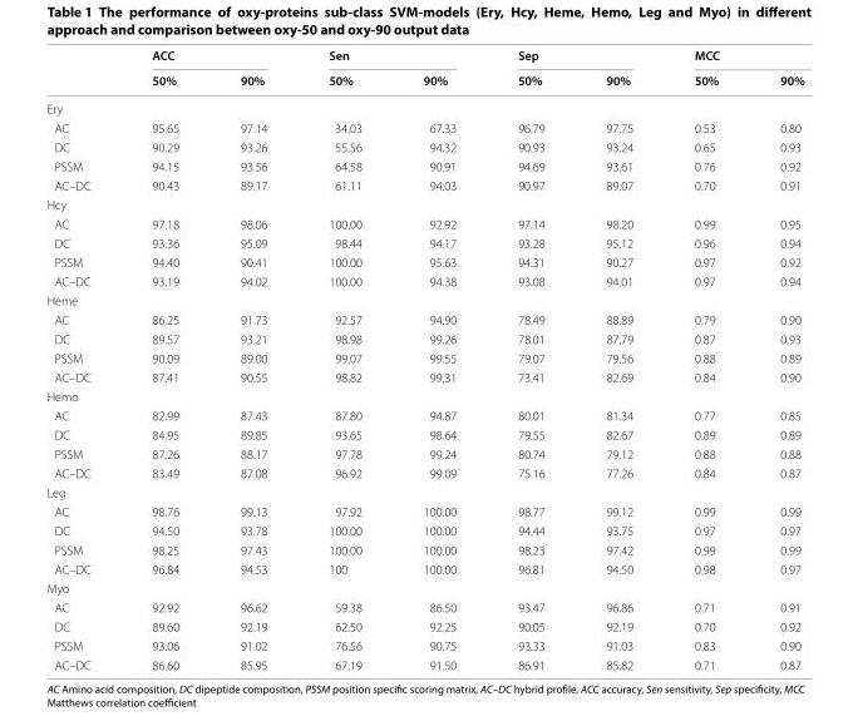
<table><thead><tr><td rowspan="2"></td><td colspan="2">ACC</td><td colspan="2">Sen</td><td colspan="2">Sep</td><td colspan="2">MCC</td></tr><tr><td>50%</td><td>90%</td><td>50%</td><td>90%</td><td>50%</td><td>90%</td><td>50%</td><td>90%</td></tr></thead><tbody><tr><td colspan="9">Ery</td></tr><tr><td>AC</td><td>95.65</td><td>97.14</td><td>34.03</td><td>67.33</td><td>96.79</td><td>97.75</td><td>0.53</td><td>0.80</td></tr><tr><td>DC</td><td>90.29</td><td>93.26</td><td>55.56</td><td>94.32</td><td>90.93</td><td>93.24</td><td>0.65</td><td>0.93</td></tr><tr><td>PSSM</td><td>94.15</td><td>93.56</td><td>64.58</td><td>90.91</td><td>94.69</td><td>93.61</td><td>0.76</td><td>0.92</td></tr><tr><td>AC–DC</td><td>90.43</td><td>89.17</td><td>61.11</td><td>94.03</td><td>90.97</td><td>89.07</td><td>0.70</td><td>0.91</td></tr><tr><td colspan="9">Hcy</td></tr><tr><td>AC</td><td>97.18</td><td>98.06</td><td>100.00</td><td>92.92</td><td>97.14</td><td>98.20</td><td>0.99</td><td>0.95</td></tr><tr><td>DC</td><td>93.36</td><td>95.09</td><td>98.44</td><td>94.17</td><td>93.28</td><td>95.12</td><td>0.96</td><td>0.94</td></tr><tr><td>PSSM</td><td>94.40</td><td>90.41</td><td>100.00</td><td>95.63</td><td>94.31</td><td>90.27</td><td>0.97</td><td>0.92</td></tr><tr><td>AC–DC</td><td>93.19</td><td>94.02</td><td>100.00</td><td>94.38</td><td>93.08</td><td>94.01</td><td>0.97</td><td>0.94</td></tr><tr><td colspan="9">Heme</td></tr><tr><td>AC</td><td>86.25</td><td>91.73</td><td>92.57</td><td>94.90</td><td>78.49</td><td>88.89</td><td>0.79</td><td>0.90</td></tr><tr><td>DC</td><td>89.57</td><td>93.21</td><td>98.98</td><td>99.26</td><td>78.01</td><td>87.79</td><td>0.87</td><td>0.93</td></tr><tr><td>PSSM</td><td>90.09</td><td>89.00</td><td>99.07</td><td>99.55</td><td>79.07</td><td>79.56</td><td>0.88</td><td>0.89</td></tr><tr><td>AC–DC</td><td>87.41</td><td>90.55</td><td>98.82</td><td>99.31</td><td>73.41</td><td>82.69</td><td>0.84</td><td>0.90</td></tr><tr><td colspan="9">Hemo</td></tr><tr><td>AC</td><td>82.99</td><td>87.43</td><td>87.80</td><td>94.87</td><td>80.01</td><td>81.34</td><td>0.77</td><td>0.85</td></tr><tr><td>DC</td><td>84.95</td><td>89.85</td><td>93.65</td><td>98.64</td><td>79.55</td><td>82.67</td><td>0.89</td><td>0.89</td></tr><tr><td>PSSM</td><td>87.26</td><td>88.17</td><td>97.78</td><td>99.24</td><td>80.74</td><td>79.12</td><td>0.88</td><td>0.88</td></tr><tr><td>AC–DC</td><td>83.49</td><td>87.08</td><td>96.92</td><td>99.09</td><td>75.16</td><td>77.26</td><td>0.84</td><td>0.87</td></tr><tr><td colspan="9">Leg</td></tr><tr><td>AC</td><td>98.76</td><td>99.13</td><td>97.92</td><td>100.00</td><td>98.77</td><td>99.12</td><td>0.99</td><td>0.99</td></tr><tr><td>DC</td><td>94.50</td><td>93.78</td><td>100.00</td><td>100.00</td><td>94.44</td><td>93.75</td><td>0.97</td><td>0.97</td></tr><tr><td>PSSM</td><td>98.25</td><td>97.43</td><td>100.00</td><td>100.00</td><td>98.23</td><td>97.42</td><td>0.99</td><td>0.99</td></tr><tr><td>AC–DC</td><td>96.84</td><td>94.53</td><td>100</td><td>100.00</td><td>96.81</td><td>94.50</td><td>0.98</td><td>0.97</td></tr><tr><td colspan="9">Myo</td></tr><tr><td>AC</td><td>92.92</td><td>96.62</td><td>59.38</td><td>86.50</td><td>93.47</td><td>96.86</td><td>0.71</td><td>0.91</td></tr><tr><td>DC</td><td>89.60</td><td>92.19</td><td>62.50</td><td>92.25</td><td>90.05</td><td>92.19</td><td>0.70</td><td>0.92</td></tr><tr><td>PSSM</td><td>93.06</td><td>91.02</td><td>76.56</td><td>90.75</td><td>93.33</td><td>91.03</td><td>0.83</td><td>0.90</td></tr><tr><td>AC–DC</td><td>86.60</td><td>85.95</td><td>67.19</td><td>91.50</td><td>86.91</td><td>85.82</td><td>0.71</td><td>0.87</td></tr></tbody></table>